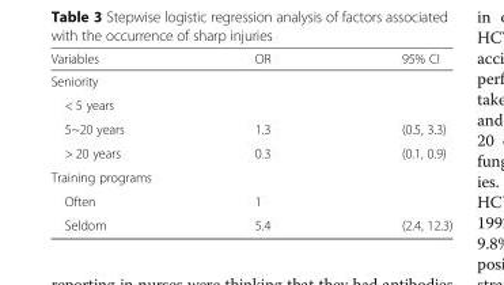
<table><thead><tr><td>Variables</td><td>OR</td><td>95% CI</td></tr></thead><tbody><tr><td colspan="3">Seniority</td></tr><tr><td colspan="3">&lt; 5 years</td></tr><tr><td>5~20 years</td><td>1.3</td><td>(0.5, 3.3)</td></tr><tr><td>&gt; 20 years</td><td>0.3</td><td>(0.1, 0.9)</td></tr><tr><td colspan="3">Training programs</td></tr><tr><td>Often</td><td>1</td><td></td></tr><tr><td>Seldom</td><td>5.4</td><td>(2.4, 12.3)</td></tr></tbody></table>